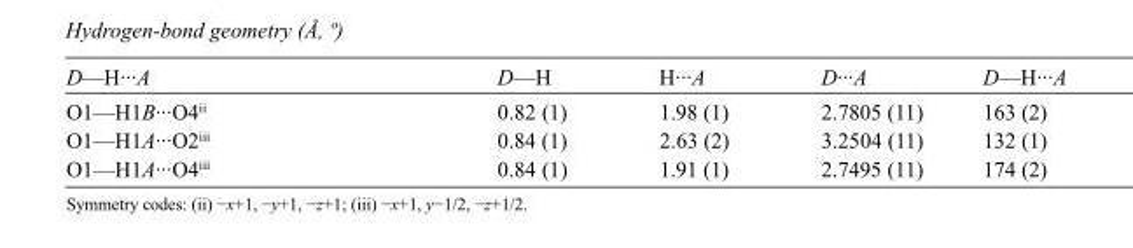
<table><tbody><tr><td>D—H···A</td><td>D—H</td><td>H···A</td><td>D···A</td><td>D—H···A</td></tr><tr><td>O1—H1B···O4<sup>ii</sup></td><td>0.82 (1)</td><td>1.98 (1)</td><td>2.7805 (11)</td><td>163 (2)</td></tr><tr><td>O1—H1A···O2<sup>iii</sup></td><td>0.84 (1)</td><td>2.63 (2)</td><td>3.2504 (11)</td><td>132 (1)</td></tr><tr><td>O1—H1A···O4<sup>iii</sup></td><td>0.84 (1)</td><td>1.91 (1)</td><td>2.7495 (11)</td><td>174 (2)</td></tr></tbody></table>